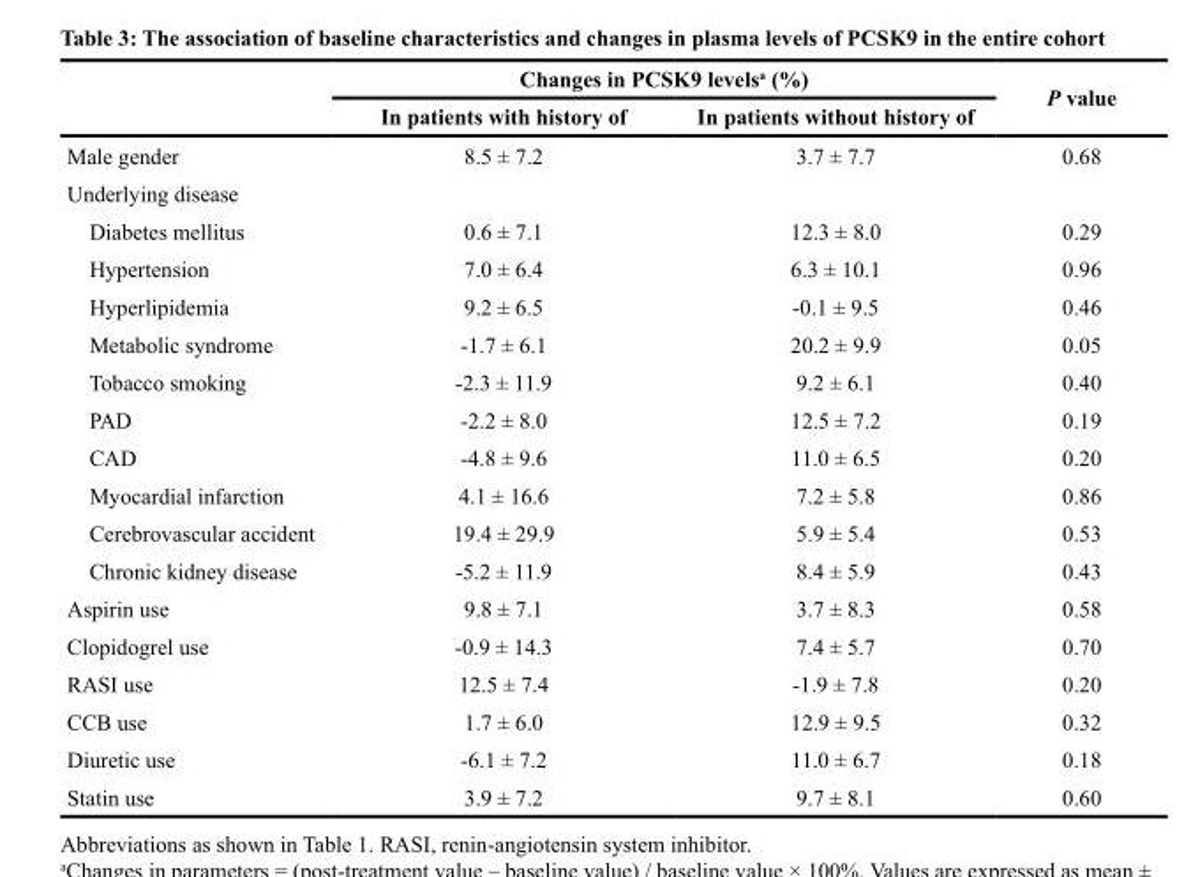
<table><thead><tr><td rowspan="2"></td><td colspan="2">Changes in PCSK9 levels<sup>a</sup> (%)</td><td rowspan="2">P value</td></tr><tr><td>In patients with history of</td><td>In patients without history of</td></tr></thead><tbody><tr><td>Male gender</td><td>8.5 ± 7.2</td><td>3.7 ± 7.7</td><td>0.68</td></tr><tr><td colspan="4">Underlying disease</td></tr><tr><td>Diabetes mellitus</td><td>0.6 ± 7.1</td><td>12.3 ± 8.0</td><td>0.29</td></tr><tr><td>Hypertension</td><td>7.0 ± 6.4</td><td>6.3 ± 10.1</td><td>0.96</td></tr><tr><td>Hyperlipidemia</td><td>9.2 ± 6.5</td><td>-0.1 ± 9.5</td><td>0.46</td></tr><tr><td>Metabolic syndrome</td><td>-1.7 ± 6.1</td><td>20.2 ± 9.9</td><td>0.05</td></tr><tr><td>Tobacco smoking</td><td>-2.3 ± 11.9</td><td>9.2 ± 6.1</td><td>0.40</td></tr><tr><td>PAD</td><td>-2.2 ± 8.0</td><td>12.5 ± 7.2</td><td>0.19</td></tr><tr><td>CAD</td><td>-4.8 ± 9.6</td><td>11.0 ± 6.5</td><td>0.20</td></tr><tr><td>Myocardial infarction</td><td>4.1 ± 16.6</td><td>7.2 ± 5.8</td><td>0.86</td></tr><tr><td>Cerebrovascular accident</td><td>19.4 ± 29.9</td><td>5.9 ± 5.4</td><td>0.53</td></tr><tr><td>Chronic kidney disease</td><td>-5.2 ± 11.9</td><td>8.4 ± 5.9</td><td>0.43</td></tr><tr><td>Aspirin use</td><td>9.8 ± 7.1</td><td>3.7 ± 8.3</td><td>0.58</td></tr><tr><td>Clopidogrel use</td><td>-0.9 ± 14.3</td><td>7.4 ± 5.7</td><td>0.70</td></tr><tr><td>RASI use</td><td>12.5 ± 7.4</td><td>-1.9 ± 7.8</td><td>0.20</td></tr><tr><td>CCB use</td><td>1.7 ± 6.0</td><td>12.9 ± 9.5</td><td>0.32</td></tr><tr><td>Diuretic use</td><td>-6.1 ± 7.2</td><td>11.0 ± 6.7</td><td>0.18</td></tr><tr><td>Statin use</td><td>3.9 ± 7.2</td><td>9.7 ± 8.1</td><td>0.60</td></tr></tbody></table>